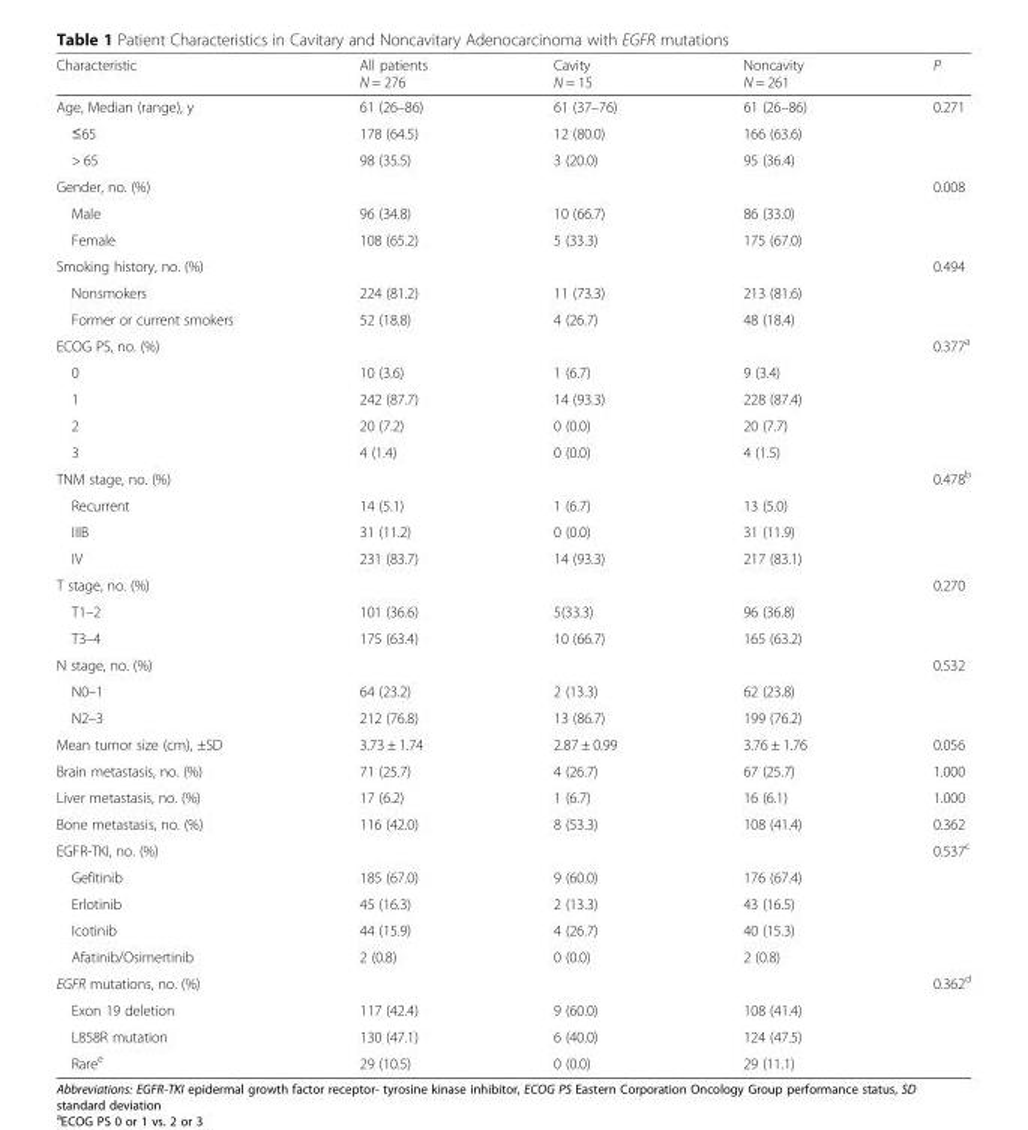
<table><thead><tr><td>Characteristic</td><td>All patients N = 276</td><td>Cavity N = 15</td><td>Noncavity N = 261</td><td>P</td></tr></thead><tbody><tr><td>Age, Median (range), y</td><td>61 (26–86)</td><td>61 (37–76)</td><td>61 (26–86)</td><td>0.271</td></tr><tr><td>≤65</td><td>178 (64.5)</td><td>12 (80.0)</td><td>166 (63.6)</td><td></td></tr><tr><td>&gt; 65</td><td>98 (35.5)</td><td>3 (20.0)</td><td>95 (36.4)</td><td></td></tr><tr><td>Gender, no. (%)</td><td></td><td></td><td></td><td>0.008</td></tr><tr><td>Male</td><td>96 (34.8)</td><td>10 (66.7)</td><td>86 (33.0)</td><td></td></tr><tr><td>Female</td><td>108 (65.2)</td><td>5 (33.3)</td><td>175 (67.0)</td><td></td></tr><tr><td>Smoking history, no. (%)</td><td></td><td></td><td></td><td>0.494</td></tr><tr><td>Nonsmokers</td><td>224 (81.2)</td><td>11 (73.3)</td><td>213 (81.6)</td><td></td></tr><tr><td>Former or current smokers</td><td>52 (18.8)</td><td>4 (26.7)</td><td>48 (18.4)</td><td></td></tr><tr><td>ECOG PS, no. (%)</td><td></td><td></td><td></td><td>0.377<sup>a</sup></td></tr><tr><td>0</td><td>10 (3.6)</td><td>1 (6.7)</td><td>9 (3.4)</td><td></td></tr><tr><td>1</td><td>242 (87.7)</td><td>14 (93.3)</td><td>228 (87.4)</td><td></td></tr><tr><td>2</td><td>20 (7.2)</td><td>0 (0.0)</td><td>20 (7.7)</td><td></td></tr><tr><td>3</td><td>4 (1.4)</td><td>0 (0.0)</td><td>4 (1.5)</td><td></td></tr><tr><td>TNM stage, no. (%)</td><td></td><td></td><td></td><td>0.478<sup>b</sup></td></tr><tr><td>Recurrent</td><td>14 (5.1)</td><td>1 (6.7)</td><td>13 (5.0)</td><td></td></tr><tr><td>IIIB</td><td>31 (11.2)</td><td>0 (0.0)</td><td>31 (11.9)</td><td></td></tr><tr><td>IV</td><td>231 (83.7)</td><td>14 (93.3)</td><td>217 (83.1)</td><td></td></tr><tr><td>T stage, no. (%)</td><td></td><td></td><td></td><td>0.270</td></tr><tr><td>T1–2</td><td>101 (36.6)</td><td>5(33.3)</td><td>96 (36.8)</td><td></td></tr><tr><td>T3–4</td><td>175 (63.4)</td><td>10 (66.7)</td><td>165 (63.2)</td><td></td></tr><tr><td>N stage, no. (%)</td><td></td><td></td><td></td><td>0.532</td></tr><tr><td>N0–1</td><td>64 (23.2)</td><td>2 (13.3)</td><td>62 (23.8)</td><td></td></tr><tr><td>N2–3</td><td>212 (76.8)</td><td>13 (86.7)</td><td>199 (76.2)</td><td></td></tr><tr><td>Mean tumor size (cm), ±SD</td><td>3.73 ± 1.74</td><td>2.87 ± 0.99</td><td>3.76 ± 1.76</td><td>0.056</td></tr><tr><td>Brain metastasis, no. (%)</td><td>71 (25.7)</td><td>4 (26.7)</td><td>67 (25.7)</td><td>1.000</td></tr><tr><td>Liver metastasis, no. (%)</td><td>17 (6.2)</td><td>1 (6.7)</td><td>16 (6.1)</td><td>1.000</td></tr><tr><td>Bone metastasis, no. (%)</td><td>116 (42.0)</td><td>8 (53.3)</td><td>108 (41.4)</td><td>0.362</td></tr><tr><td>EGFR-TKI, no. (%)</td><td></td><td></td><td></td><td>0.537<sup>c</sup></td></tr><tr><td>Gefitinib</td><td>185 (67.0)</td><td>9 (60.0)</td><td>176 (67.4)</td><td></td></tr><tr><td>Erlotinib</td><td>45 (16.3)</td><td>2 (13.3)</td><td>43 (16.5)</td><td></td></tr><tr><td>Icotinib</td><td>44 (15.9)</td><td>4 (26.7)</td><td>40 (15.3)</td><td></td></tr><tr><td>Afatinib/Osimertinib</td><td>2 (0.8)</td><td>0 (0.0)</td><td>2 (0.8)</td><td></td></tr><tr><td>EGFR mutations, no. (%)</td><td></td><td></td><td></td><td>0.362<sup>d</sup></td></tr><tr><td>Exon 19 deletion</td><td>117 (42.4)</td><td>9 (60.0)</td><td>108 (41.4)</td><td></td></tr><tr><td>L858R mutation</td><td>130 (47.1)</td><td>6 (40.0)</td><td>124 (47.5)</td><td></td></tr><tr><td>Rare<sup>e</sup></td><td>29 (10.5)</td><td>0 (0.0)</td><td>29 (11.1)</td><td></td></tr></tbody></table>